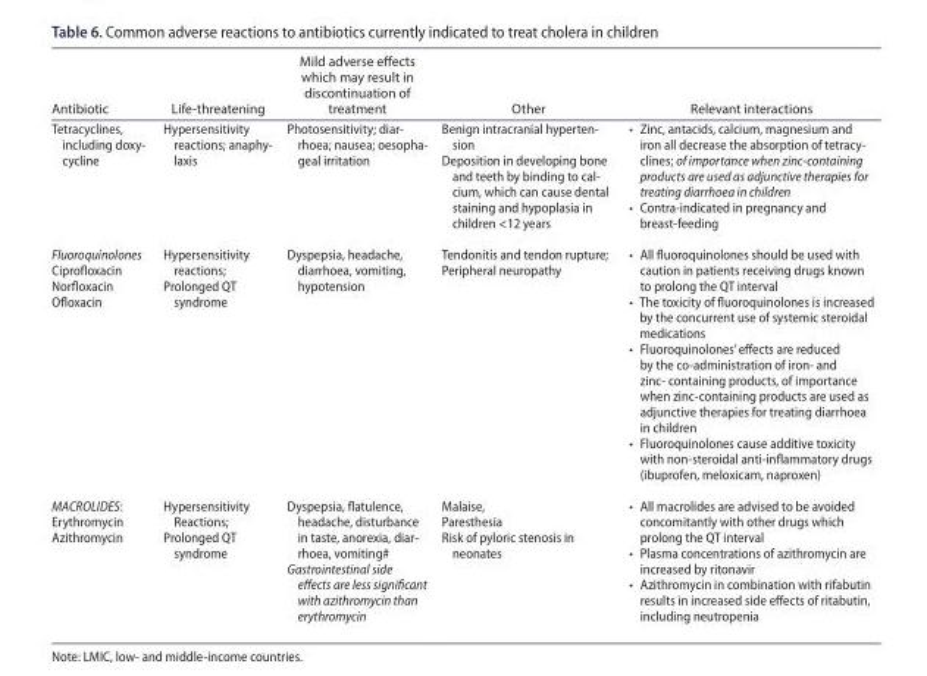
<table><thead><tr><td>Antibiotic</td><td>Life-threatening</td><td>Mild adverse effects which may result in discontinuation of treatment</td><td>Other</td><td>Relevant interactions</td></tr></thead><tbody><tr><td>tetracyclines, including doxy- cycline</td><td>hypersensitivity reactions; anaphy- laxis</td><td>Photosensitivity; diar- rhoea; nausea; oesopha- geal irritation</td><td>Benign intracranial hyperten- sion deposition in developing bone and teeth by binding to cal- cium, which can cause dental staining and hypoplasia in children &lt;12 years</td><td>• Zinc, antacids, calcium, magnesium and iron all decrease the absorption of tetracy- clines; of importance when zinc-containing products are used as adjunctive therapies for treating diarrhoea in children • contra-indicated in pregnancy and breast-feeding</td></tr><tr><td>Fluoroquinolones ciprofloxacin norfloxacin ofloxacin</td><td>hypersensitivity reactions; Prolonged Qt syndrome</td><td>dyspepsia, headache, diarrhoea, vomiting, hypotension</td><td>tendonitis and tendon rupture; Peripheral neuropathy</td><td>• all fluoroquinolones should be used with caution in patients receiving drugs known to prolong the Qt interval • the toxicity of fluoroquinolones is increased by the concurrent use of systemic steroidal medications • Fluoroquinolones’ effects are reduced by the co-administration of iron- and zinc- containing products, of importance when zinc-containing products are used as adjunctive therapies for treating diarrhoea in children • Fluoroquinolones cause additive toxicity with non-steroidal anti-inflammatory drugs (ibuprofen, meloxicam, naproxen)</td></tr><tr><td>MACROLIDES: erythromycin azithromycin</td><td>hypersensitivity reactions; Prolonged Qt syndrome</td><td>dyspepsia, flatulence, headache, disturbance in taste, anorexia, diar- rhoea, vomiting# Gastrointestinal side effects are less significant with azithromycin than erythromycin</td><td>Malaise, Paresthesia risk of pyloric stenosis in neonates</td><td>• all macrolides are advised to be avoided concomitantly with other drugs which prolong the Qt interval • Plasma concentrations of azithromycin are increased by ritonavir • azithromycin in combination with rifabutin results in increased side effects of ritabutin, including neutropenia</td></tr></tbody></table>